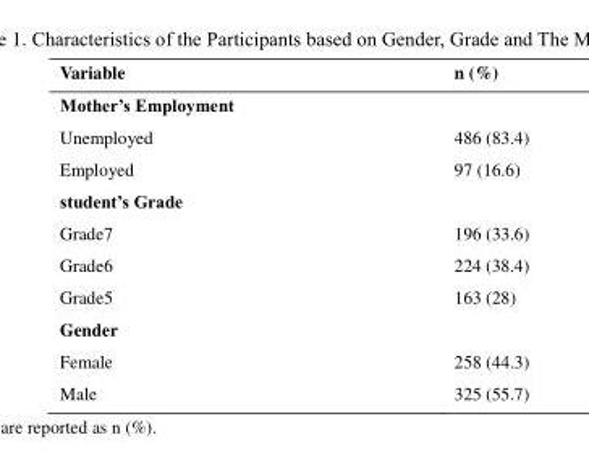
<table><thead><tr><td>Variable</td><td>n (%)</td></tr></thead><tbody><tr><td colspan="2">Mother’s Employment</td></tr><tr><td>Unemployed</td><td>486 (83.4)</td></tr><tr><td>Employed</td><td>97 (16.6)</td></tr><tr><td colspan="2">student’s Grade</td></tr><tr><td>Grade7</td><td>196 (33.6)</td></tr><tr><td>Grade6</td><td>224 (38.4)</td></tr><tr><td>Grade5</td><td>163 (28)</td></tr><tr><td colspan="2">Gender</td></tr><tr><td>Female</td><td>258 (44.3)</td></tr><tr><td>Male</td><td>325 (55.7)</td></tr></tbody></table>